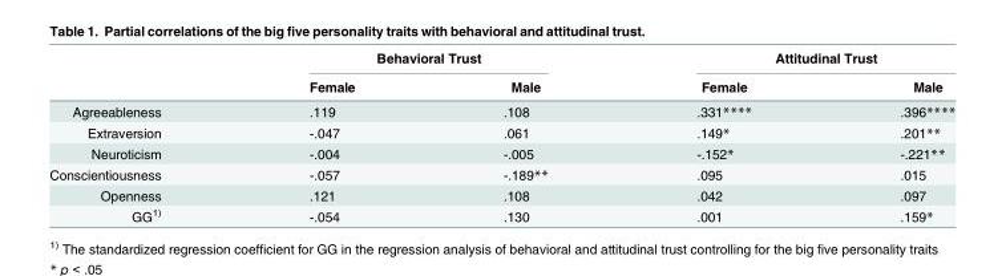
<table><thead><tr><td rowspan="2"></td><td colspan="2">Behavioral Trust</td><td colspan="2">Attitudinal Trust</td></tr><tr><td>Female</td><td>Male</td><td>Female</td><td>Male</td></tr></thead><tbody><tr><td>Agreeableness</td><td>.119</td><td>.108</td><td>.331****</td><td>.396****</td></tr><tr><td>Extraversion</td><td>-.047</td><td>.061</td><td>.149*</td><td>.201**</td></tr><tr><td>Neuroticism</td><td>-.004</td><td>-.005</td><td>-.152*</td><td>-.221**</td></tr><tr><td>Conscientiousness</td><td>-.057</td><td>-.189**</td><td>.095</td><td>.015</td></tr><tr><td>Openness</td><td>.121</td><td>.108</td><td>.042</td><td>.097</td></tr><tr><td>GG<sup>1)</sup></td><td>-.054</td><td>.130</td><td>.001</td><td>.159*</td></tr></tbody></table>